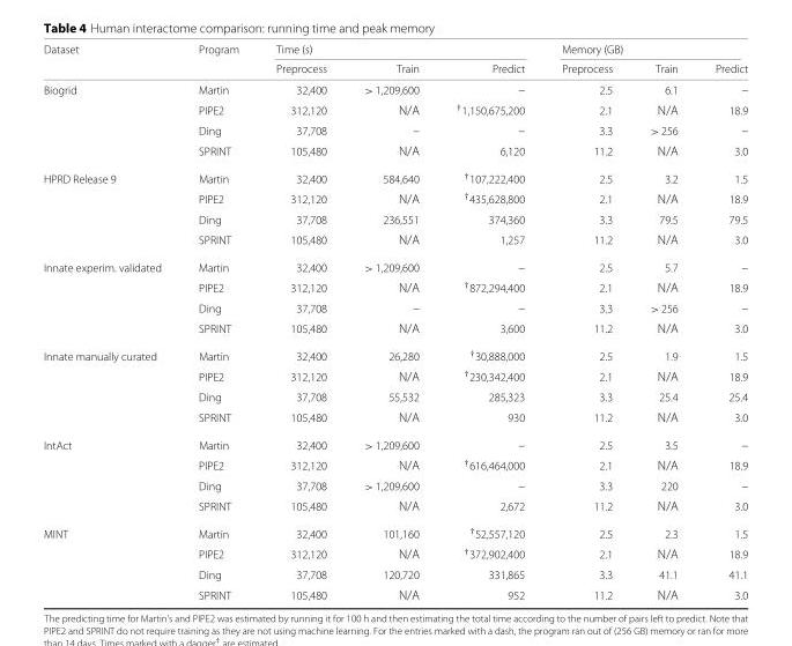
<table><thead><tr><td rowspan="2">Dataset</td><td rowspan="2">Program</td><td colspan="3">Time (s)</td><td colspan="3">Memory (GB)</td></tr><tr><td>Preprocess</td><td>Train</td><td>Predict</td><td>Preprocess</td><td>Train</td><td>Predict</td></tr></thead><tbody><tr><td rowspan="4">Biogrid</td><td>Martin</td><td>32,400</td><td>&gt; 1,209,600</td><td>–</td><td>2.5</td><td>6.1</td><td>–</td></tr><tr><td>PIPE2</td><td>312,120</td><td>N/A</td><td><sup>†</sup>1,150,675,200</td><td>2.1</td><td>N/A</td><td>18.9</td></tr><tr><td>Ding</td><td>37,708</td><td>–</td><td>–</td><td>3.3</td><td>&gt; 256</td><td>–</td></tr><tr><td>SPRINT</td><td>105,480</td><td>N/A</td><td>6,120</td><td>11.2</td><td>N/A</td><td>3.0</td></tr><tr><td rowspan="4">HPRD Release 9</td><td>Martin</td><td>32,400</td><td>584,640</td><td><sup>†</sup>107,222,400</td><td>2.5</td><td>3.2</td><td>1.5</td></tr><tr><td>PIPE2</td><td>312,120</td><td>N/A</td><td><sup>†</sup>435,628,800</td><td>2.1</td><td>N/A</td><td>18.9</td></tr><tr><td>Ding</td><td>37,708</td><td>236,551</td><td>374,360</td><td>3.3</td><td>79.5</td><td>79.5</td></tr><tr><td>SPRINT</td><td>105,480</td><td>N/A</td><td>1,257</td><td>11.2</td><td>N/A</td><td>3.0</td></tr><tr><td rowspan="4">Innate experim. validated</td><td>Martin</td><td>32,400</td><td>&gt; 1,209,600</td><td>–</td><td>2.5</td><td>5.7</td><td>–</td></tr><tr><td>PIPE2</td><td>312,120</td><td>N/A</td><td><sup>†</sup>872,294,400</td><td>2.1</td><td>N/A</td><td>18.9</td></tr><tr><td>Ding</td><td>37,708</td><td>–</td><td>–</td><td>3.3</td><td>&gt; 256</td><td>–</td></tr><tr><td>SPRINT</td><td>105,480</td><td>N/A</td><td>3,600</td><td>11.2</td><td>N/A</td><td>3.0</td></tr><tr><td rowspan="4">Innate manually curated</td><td>Martin</td><td>32,400</td><td>26,280</td><td><sup>†</sup>30,888,000</td><td>2.5</td><td>1.9</td><td>1.5</td></tr><tr><td>PIPE2</td><td>312,120</td><td>N/A</td><td><sup>†</sup>230,342,400</td><td>2.1</td><td>N/A</td><td>18.9</td></tr><tr><td>Ding</td><td>37,708</td><td>55,532</td><td>285,323</td><td>3.3</td><td>25.4</td><td>25.4</td></tr><tr><td>SPRINT</td><td>105,480</td><td>N/A</td><td>930</td><td>11.2</td><td>N/A</td><td>3.0</td></tr><tr><td rowspan="4">IntAct</td><td>Martin</td><td>32,400</td><td>&gt; 1,209,600</td><td>–</td><td>2.5</td><td>3.5</td><td>–</td></tr><tr><td>PIPE2</td><td>312,120</td><td>N/A</td><td><sup>†</sup>616,464,000</td><td>2.1</td><td>N/A</td><td>18.9</td></tr><tr><td>Ding</td><td>37,708</td><td>&gt; 1,209,600</td><td>–</td><td>3.3</td><td>220</td><td>–</td></tr><tr><td>SPRINT</td><td>105,480</td><td>N/A</td><td>2,672</td><td>11.2</td><td>N/A</td><td>3.0</td></tr><tr><td rowspan="4">MINT</td><td>Martin</td><td>32,400</td><td>101,160</td><td><sup>†</sup>52,557,120</td><td>2.5</td><td>2.3</td><td>1.5</td></tr><tr><td>PIPE2</td><td>312,120</td><td>N/A</td><td><sup>†</sup>372,902,400</td><td>2.1</td><td>N/A</td><td>18.9</td></tr><tr><td>Ding</td><td>37,708</td><td>120,720</td><td>331,865</td><td>3.3</td><td>41.1</td><td>41.1</td></tr><tr><td>SPRINT</td><td>105,480</td><td>N/A</td><td>952</td><td>11.2</td><td>N/A</td><td>3.0</td></tr></tbody></table>